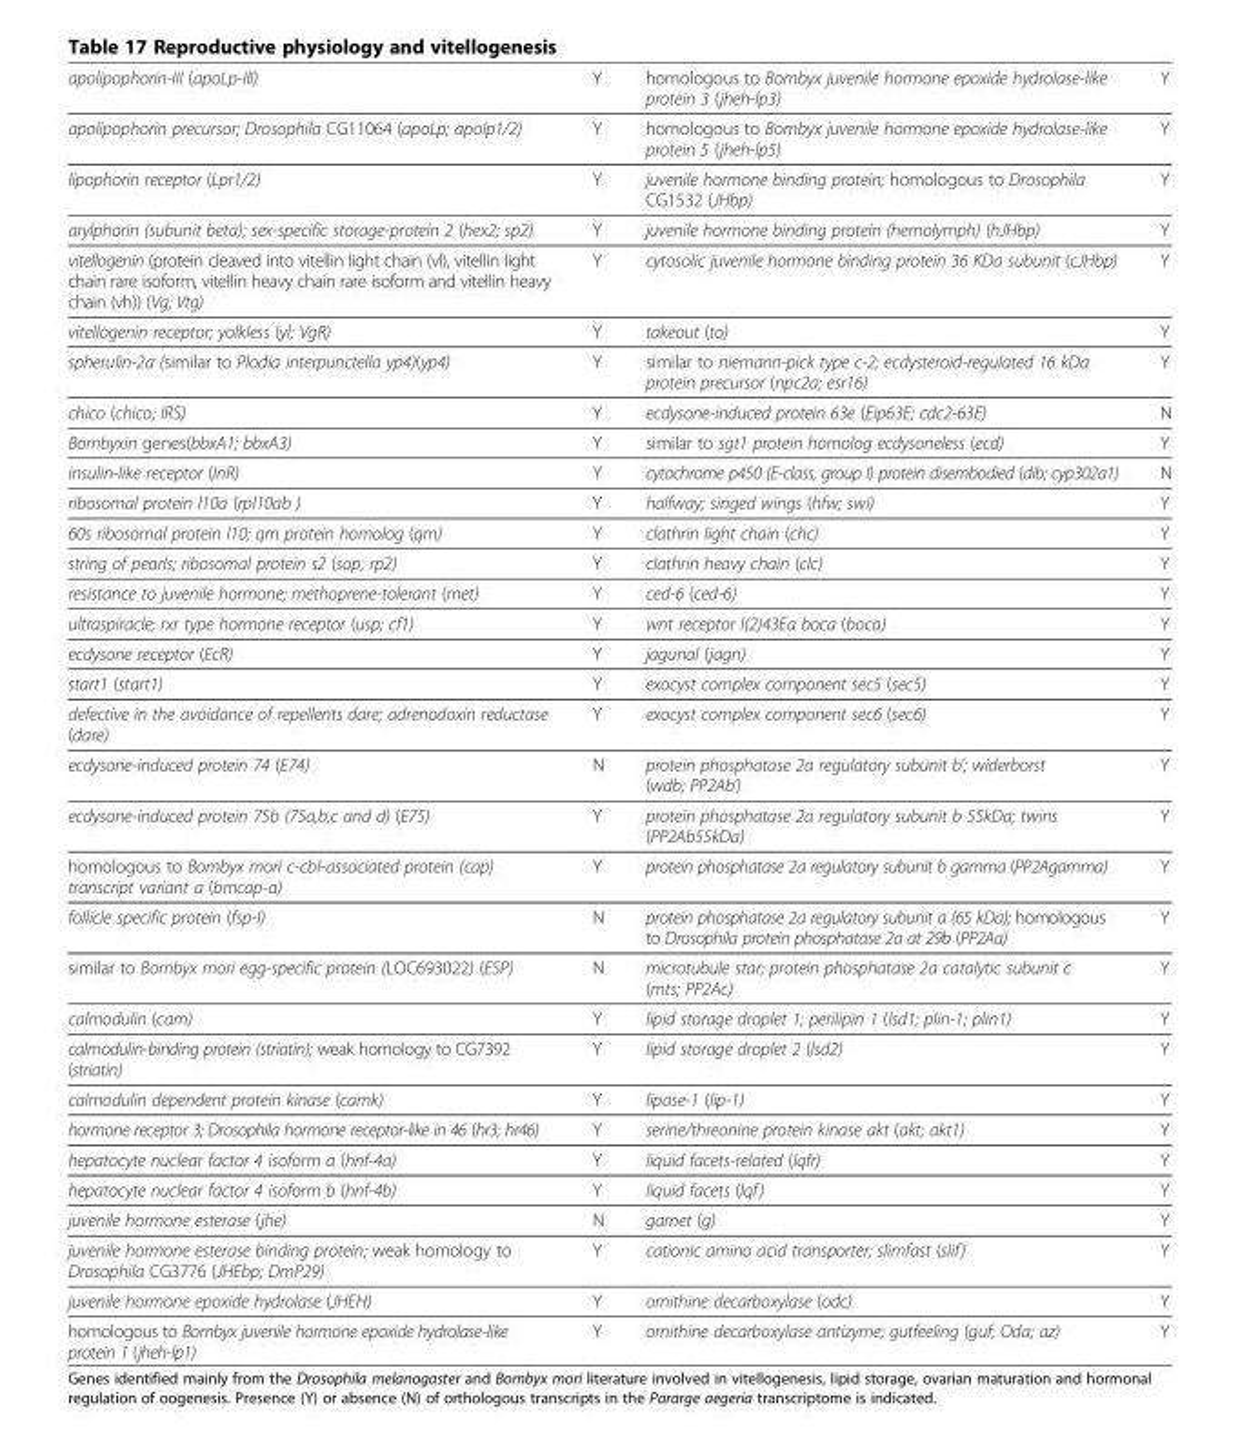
<table><tbody><tr><td>apolipophorin-III (apoLp-III)</td><td>Y</td><td>homologous to Bombyx juvenile hormone epoxide hydrolase-like protein 3 (jheh-lp3)</td><td>Y</td></tr><tr><td>apolipophorin precursor; Drosophila CG11064 (apoLp; apolp1/2)</td><td>Y</td><td>homologous to Bombyx juvenile hormone epoxide hydrolase-like protein 5 (jheh-lp5)</td><td>Y</td></tr><tr><td>lipophorin receptor (Lpr1/2)</td><td>Y</td><td>juvenile hormone binding protein; homologous to Drosophila CG1532 (JHbp)</td><td>Y</td></tr><tr><td>arylphorin (subunit beta); sex-specific storage-protein 2 (hex2; sp2)</td><td>Y</td><td>juvenile hormone binding protein (hemolymph) (hJHbp)</td><td>Y</td></tr><tr><td>vitellogenin (protein cleaved into vitellin light chain (vl), vitellin light chain rare isoform, vitellin heavy chain rare isoform and vitellin heavy chain (vh)) (Vg; Vtg)</td><td>Y</td><td>cytosolic juvenile hormone binding protein 36 KDa subunit (cJHbp)</td><td>Y</td></tr><tr><td>vitellogenin receptor; yolkless (yl; VgR)</td><td>Y</td><td>takeout (to)</td><td>Y</td></tr><tr><td>spherulin-2a (similar to Plodia interpunctella yp4)(yp4)</td><td>Y</td><td>similar to niemann-pick type c-2; ecdysteroid-regulated 16 kDa protein precursor (npc2a; esr16)</td><td>Y</td></tr><tr><td>chico (chico; IRS)</td><td>Y</td><td>ecdysone-induced protein 63e (Eip63E; cdc2-63E)</td><td>N</td></tr><tr><td>Bombyxin genes(bbxA1; bbxA3)</td><td>Y</td><td>similar to sgt1 protein homolog ecdysoneless (ecd)</td><td>Y</td></tr><tr><td>insulin-like receptor (InR)</td><td>Y</td><td>cytochrome p450 (E-class, group I) protein disembodied (dib; cyp302a1)</td><td>N</td></tr><tr><td>ribosomal protein l10a (rpl10ab )</td><td>Y</td><td>halfway; singed wings (hfw; swi)</td><td>Y</td></tr><tr><td>60s ribosomal protein l10; qm protein homolog (qm)</td><td>Y</td><td>clathrin light chain (chc)</td><td>Y</td></tr><tr><td>string of pearls; ribosomal protein s2 (sop; rp2)</td><td>Y</td><td>clathrin heavy chain (clc)</td><td>Y</td></tr><tr><td>resistance to juvenile hormone; methoprene-tolerant (met)</td><td>Y</td><td>ced-6 (ced-6)</td><td>Y</td></tr><tr><td>ultraspiracle; rxr type hormone receptor (usp; cf1)</td><td>Y</td><td>wnt receptor l(2)43Ea boca (boca)</td><td>Y</td></tr><tr><td>ecdysone receptor (EcR)</td><td>Y</td><td>jagunal (jagn)</td><td>Y</td></tr><tr><td>start1 (start1)</td><td>Y</td><td>exocyst complex component sec5 (sec5)</td><td>Y</td></tr><tr><td>defective in the avoidance of repellents dare; adrenodoxin reductase (dare)</td><td>Y</td><td>exocyst complex component sec6 (sec6)</td><td>Y</td></tr><tr><td>ecdysone-induced protein 74 (E74)</td><td>N</td><td>protein phosphatase 2a regulatory subunit b’; widerborst (wdb; PP2Ab’)</td><td>Y</td></tr><tr><td>ecdysone-induced protein 75b (75a,b,c and d) (E75)</td><td>Y</td><td>protein phosphatase 2a regulatory subunit b 55kDa; twins (PP2Ab55kDa)</td><td>Y</td></tr><tr><td>homologous to Bombyx mori c-cbl-associated protein (cap) transcript variant a (bmcap-a)</td><td>Y</td><td>protein phosphatase 2a regulatory subunit b gamma (PP2Agamma)</td><td>Y</td></tr><tr><td>follicle specific protein (fsp-I)</td><td>N</td><td>protein phosphatase 2a regulatory subunit a (65 kDa); homologous to Drosophila protein phosphatase 2a at 29b (PP2Aa)</td><td>Y</td></tr><tr><td>similar to Bombyx mori egg-specific protein (LOC693022) (ESP)</td><td>N</td><td>microtubule star; protein phosphatase 2a catalytic subunit c (mts; PP2Ac)</td><td>Y</td></tr><tr><td>calmodulin (cam)</td><td>Y</td><td>lipid storage droplet 1; perilipin 1 (lsd1; plin-1; plin1)</td><td>Y</td></tr><tr><td>calmodulin-binding protein (striatin); weak homology to CG7392 (striatin)</td><td>Y</td><td>lipid storage droplet 2 (lsd2)</td><td>Y</td></tr><tr><td>calmodulin dependent protein kinase (camk)</td><td>Y</td><td>lipase-1 (lip-1)</td><td>Y</td></tr><tr><td>hormone receptor 3; Drosophila hormone receptor-like in 46 (hr3; hr46)</td><td>Y</td><td>serine/threonine protein kinase akt (akt; akt1)</td><td>Y</td></tr><tr><td>hepatocyte nuclear factor 4 isoform a (hnf-4a)</td><td>Y</td><td>liquid facets-related (lqfr)</td><td>Y</td></tr><tr><td>hepatocyte nuclear factor 4 isoform b (hnf-4b)</td><td>Y</td><td>liquid facets (lqf)</td><td>Y</td></tr><tr><td>juvenile hormone esterase (jhe)</td><td>N</td><td>garnet (g)</td><td>Y</td></tr><tr><td>juvenile hormone esterase binding protein; weak homology to Drosophila CG3776 (JHEbp; DmP29)</td><td>Y</td><td>cationic amino acid transporter; slimfast (slif)</td><td>Y</td></tr><tr><td>juvenile hormone epoxide hydrolase (JHEH)</td><td>Y</td><td>ornithine decarboxylase (odc)</td><td>Y</td></tr><tr><td>homologous to Bombyx juvenile hormone epoxide hydrolase-like protein 1 (jheh-lp1)</td><td>Y</td><td>ornithine decarboxylase antizyme; gutfeeling (guf; Oda; az)</td><td>Y</td></tr></tbody></table>